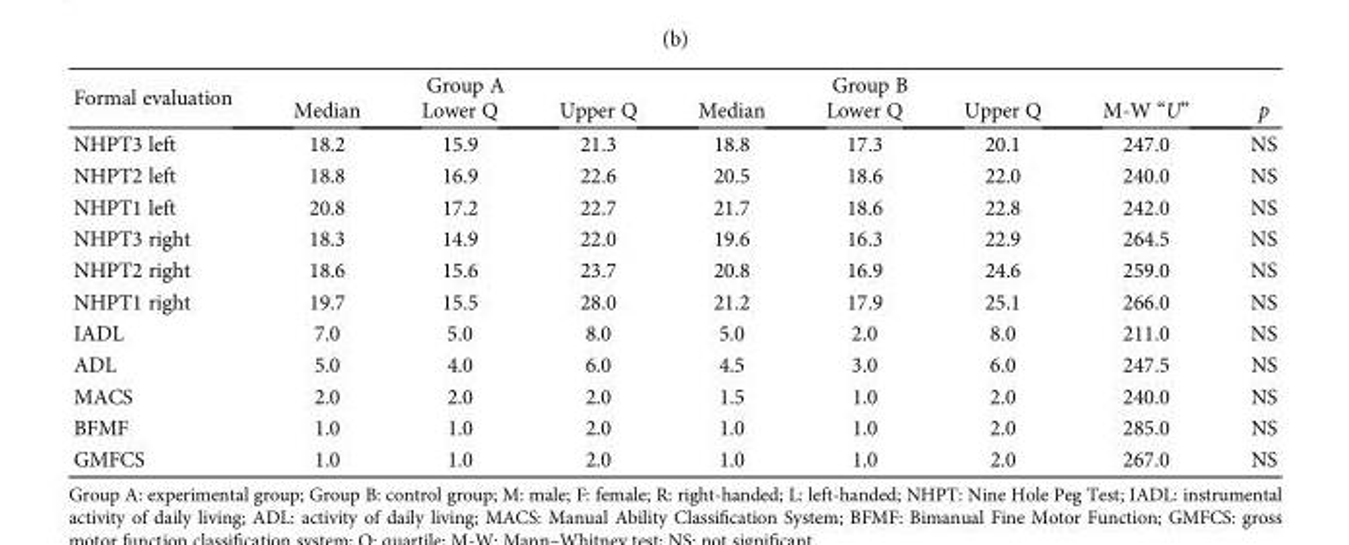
<table><thead><tr><td rowspan="2">Formal evaluation</td><td colspan="3">Group A</td><td colspan="3">Group B</td><td rowspan="2">M-W “U”</td><td rowspan="2">p</td></tr><tr><td>Median</td><td>Lower Q</td><td>Upper Q</td><td>Median</td><td>Lower Q</td><td>Upper Q</td></tr></thead><tbody><tr><td>NHPT3 left</td><td>18.2</td><td>15.9</td><td>21.3</td><td>18.8</td><td>17.3</td><td>20.1</td><td>247.0</td><td>NS</td></tr><tr><td>NHPT2 left</td><td>18.8</td><td>16.9</td><td>22.6</td><td>20.5</td><td>18.6</td><td>22.0</td><td>240.0</td><td>NS</td></tr><tr><td>NHPT1 left</td><td>20.8</td><td>17.2</td><td>22.7</td><td>21.7</td><td>18.6</td><td>22.8</td><td>242.0</td><td>NS</td></tr><tr><td>NHPT3 right</td><td>18.3</td><td>14.9</td><td>22.0</td><td>19.6</td><td>16.3</td><td>22.9</td><td>264.5</td><td>NS</td></tr><tr><td>NHPT2 right</td><td>18.6</td><td>15.6</td><td>23.7</td><td>20.8</td><td>16.9</td><td>24.6</td><td>259.0</td><td>NS</td></tr><tr><td>NHPT1 right</td><td>19.7</td><td>15.5</td><td>28.0</td><td>21.2</td><td>17.9</td><td>25.1</td><td>266.0</td><td>NS</td></tr><tr><td>IADL</td><td>7.0</td><td>5.0</td><td>8.0</td><td>5.0</td><td>2.0</td><td>8.0</td><td>211.0</td><td>NS</td></tr><tr><td>ADL</td><td>5.0</td><td>4.0</td><td>6.0</td><td>4.5</td><td>3.0</td><td>6.0</td><td>247.5</td><td>NS</td></tr><tr><td>MACS</td><td>2.0</td><td>2.0</td><td>2.0</td><td>1.5</td><td>1.0</td><td>2.0</td><td>240.0</td><td>NS</td></tr><tr><td>BFMF</td><td>1.0</td><td>1.0</td><td>2.0</td><td>1.0</td><td>1.0</td><td>2.0</td><td>285.0</td><td>NS</td></tr><tr><td>GMFCS</td><td>1.0</td><td>1.0</td><td>2.0</td><td>1.0</td><td>1.0</td><td>2.0</td><td>267.0</td><td>NS</td></tr></tbody></table>